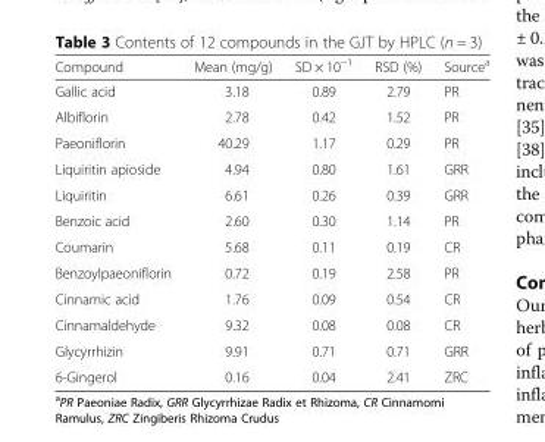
<table><thead><tr><td>Compound</td><td>Mean (mg/g)</td><td>SD × 10<sup>−1</sup></td><td>RSD (%)</td><td>Source<sup>a</sup></td></tr></thead><tbody><tr><td>Gallic acid</td><td>3.18</td><td>0.89</td><td>2.79</td><td>PR</td></tr><tr><td>Albiflorin</td><td>2.78</td><td>0.42</td><td>1.52</td><td>PR</td></tr><tr><td>Paeoniflorin</td><td>40.29</td><td>1.17</td><td>0.29</td><td>PR</td></tr><tr><td>Liquiritin apioside</td><td>4.94</td><td>0.80</td><td>1.61</td><td>GRR</td></tr><tr><td>Liquiritin</td><td>6.61</td><td>0.26</td><td>0.39</td><td>GRR</td></tr><tr><td>Benzoic acid</td><td>2.60</td><td>0.30</td><td>1.14</td><td>PR</td></tr><tr><td>Coumarin</td><td>5.68</td><td>0.11</td><td>0.19</td><td>CR</td></tr><tr><td>Benzoylpaeoniflorin</td><td>0.72</td><td>0.19</td><td>2.58</td><td>PR</td></tr><tr><td>Cinnamic acid</td><td>1.76</td><td>0.09</td><td>0.54</td><td>CR</td></tr><tr><td>Cinnamaldehyde</td><td>9.32</td><td>0.08</td><td>0.08</td><td>CR</td></tr><tr><td>Glycyrrhizin</td><td>9.91</td><td>0.71</td><td>0.71</td><td>GRR</td></tr><tr><td>6-Gingerol</td><td>0.16</td><td>0.04</td><td>2.41</td><td>ZRC</td></tr></tbody></table>